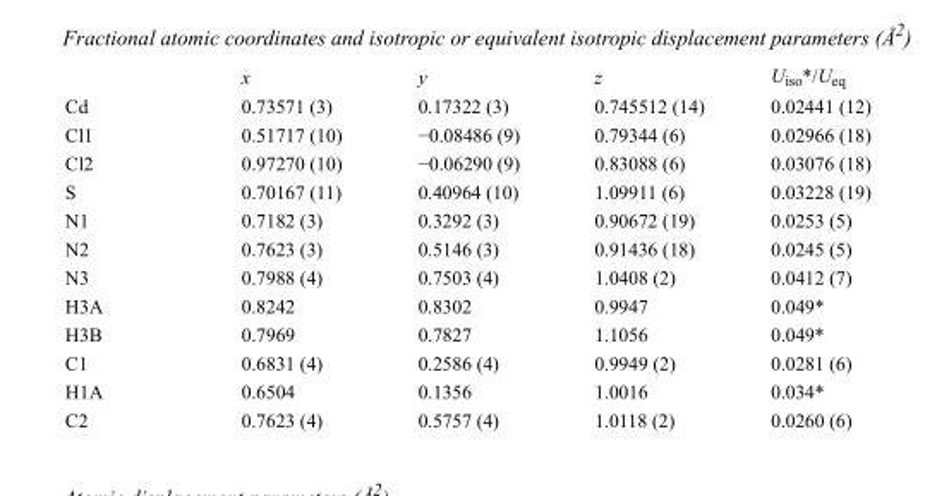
<table><thead><tr><td></td><td>x</td><td>y</td><td>z</td><td>U<sub>iso</sub>*/U<sub>eq</sub></td></tr></thead><tbody><tr><td>Cd</td><td>0.73571 (3)</td><td>0.17322 (3)</td><td>0.745512 (14)</td><td>0.02441 (12)</td></tr><tr><td>Cl1</td><td>0.51717 (10)</td><td>−0.08486 (9)</td><td>0.79344 (6)</td><td>0.02966 (18)</td></tr><tr><td>Cl2</td><td>0.97270 (10)</td><td>−0.06290 (9)</td><td>0.83088 (6)</td><td>0.03076 (18)</td></tr><tr><td>S</td><td>0.70167 (11)</td><td>0.40964 (10)</td><td>1.09911 (6)</td><td>0.03228 (19)</td></tr><tr><td>N1</td><td>0.7182 (3)</td><td>0.3292 (3)</td><td>0.90672 (19)</td><td>0.0253 (5)</td></tr><tr><td>N2</td><td>0.7623 (3)</td><td>0.5146 (3)</td><td>0.91436 (18)</td><td>0.0245 (5)</td></tr><tr><td>N3</td><td>0.7988 (4)</td><td>0.7503 (4)</td><td>1.0408 (2)</td><td>0.0412 (7)</td></tr><tr><td>H3A</td><td>0.8242</td><td>0.8302</td><td>0.9947</td><td>0.049*</td></tr><tr><td>H3B</td><td>0.7969</td><td>0.7827</td><td>1.1056</td><td>0.049*</td></tr><tr><td>C1</td><td>0.6831 (4)</td><td>0.2586 (4)</td><td>0.9949 (2)</td><td>0.0281 (6)</td></tr><tr><td>H1A</td><td>0.6504</td><td>0.1356</td><td>1.0016</td><td>0.034*</td></tr><tr><td>C2</td><td>0.7623 (4)</td><td>0.5757 (4)</td><td>1.0118 (2)</td><td>0.0260 (6)</td></tr></tbody></table>